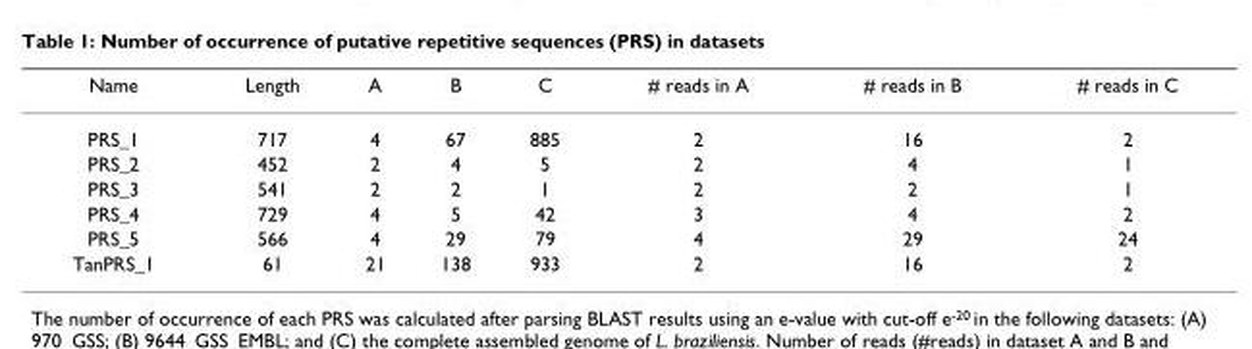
<table><thead><tr><td>Name</td><td>Length</td><td>A</td><td>B</td><td>C</td><td># reads in A</td><td># reads in B</td><td># reads in C</td></tr></thead><tbody><tr><td>PRS_1</td><td>717</td><td>4</td><td>67</td><td>885</td><td>2</td><td>16</td><td>2</td></tr><tr><td>PRS_2</td><td>452</td><td>2</td><td>4</td><td>5</td><td>2</td><td>4</td><td>1</td></tr><tr><td>PRS_3</td><td>541</td><td>2</td><td>2</td><td>1</td><td>2</td><td>2</td><td>1</td></tr><tr><td>PRS_4</td><td>729</td><td>4</td><td>5</td><td>42</td><td>3</td><td>4</td><td>2</td></tr><tr><td>PRS_5</td><td>566</td><td>4</td><td>29</td><td>79</td><td>4</td><td>29</td><td>24</td></tr><tr><td>TanPRS_1</td><td>61</td><td>21</td><td>138</td><td>933</td><td>2</td><td>16</td><td>2</td></tr></tbody></table>